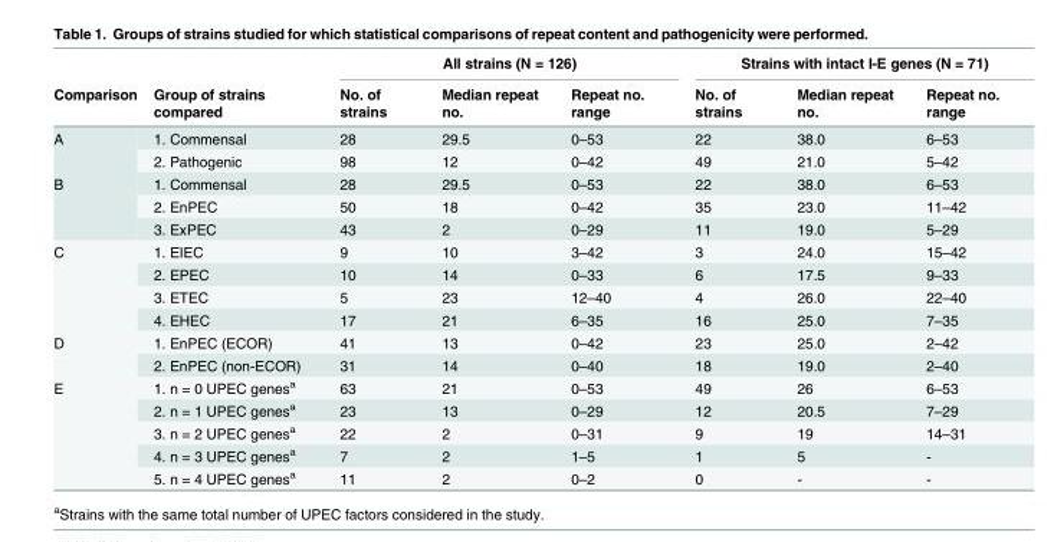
<table><thead><tr><td rowspan="2">Comparison</td><td rowspan="2">Group of strains compared</td><td colspan="3">All strains (N = 126)</td><td colspan="3">Strains with intact I-E genes (N = 71)</td></tr><tr><td>No. of strains</td><td>Median repeat no.</td><td>Repeat no. range</td><td>No. of strains</td><td>Median repeat no.</td><td>Repeat no. range</td></tr></thead><tbody><tr><td rowspan="2">A</td><td>1. Commensal</td><td>28</td><td>29.5</td><td>0–53</td><td>22</td><td>38.0</td><td>6–53</td></tr><tr><td>2. Pathogenic</td><td>98</td><td>12</td><td>0–42</td><td>49</td><td>21.0</td><td>5–42</td></tr><tr><td rowspan="3">B</td><td>1. Commensal</td><td>28</td><td>29.5</td><td>0–53</td><td>22</td><td>38.0</td><td>6–53</td></tr><tr><td>2. EnPEC</td><td>50</td><td>18</td><td>0–42</td><td>35</td><td>23.0</td><td>11–42</td></tr><tr><td>3. ExPEC</td><td>43</td><td>2</td><td>0–29</td><td>11</td><td>19.0</td><td>5–29</td></tr><tr><td rowspan="4">C</td><td>1. EIEC</td><td>9</td><td>10</td><td>3–42</td><td>3</td><td>24.0</td><td>15–42</td></tr><tr><td>2. EPEC</td><td>10</td><td>14</td><td>0–33</td><td>6</td><td>17.5</td><td>9–33</td></tr><tr><td>3. ETEC</td><td>5</td><td>23</td><td>12–40</td><td>4</td><td>26.0</td><td>22–40</td></tr><tr><td>4. EHEC</td><td>17</td><td>21</td><td>6–35</td><td>16</td><td>25.0</td><td>7–35</td></tr><tr><td rowspan="2">D</td><td>1. EnPEC (ECOR)</td><td>41</td><td>13</td><td>0–42</td><td>23</td><td>25.0</td><td>2–42</td></tr><tr><td>2. EnPEC (non-ECOR)</td><td>31</td><td>14</td><td>0–40</td><td>18</td><td>19.0</td><td>2–40</td></tr><tr><td rowspan="5">E</td><td>1. n = 0 UPEC genes<sup>a</sup></td><td>63</td><td>21</td><td>0–53</td><td>49</td><td>26</td><td>6–53</td></tr><tr><td>2. n = 1 UPEC genes<sup>a</sup></td><td>23</td><td>13</td><td>0–29</td><td>12</td><td>20.5</td><td>7–29</td></tr><tr><td>3. n = 2 UPEC genes<sup>a</sup></td><td>22</td><td>2</td><td>0–31</td><td>9</td><td>19</td><td>14–31</td></tr><tr><td>4. n = 3 UPEC genes<sup>a</sup></td><td>7</td><td>2</td><td>1–5</td><td>1</td><td>5</td><td>-</td></tr><tr><td>5. n = 4 UPEC genes<sup>a</sup></td><td>11</td><td>2</td><td>0–2</td><td>0</td><td>-</td><td>-</td></tr></tbody></table>